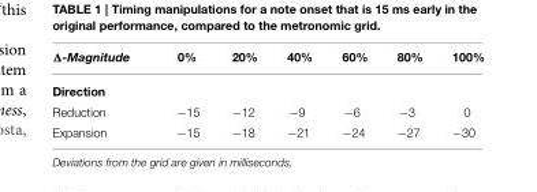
<table><thead><tr><td>Δ-Magnitude</td><td>0%</td><td>20%</td><td>40%</td><td>60%</td><td>80%</td><td>100%</td></tr></thead><tbody><tr><td colspan="7">Direction</td></tr><tr><td>Reduction</td><td>−15</td><td>−12</td><td>−9</td><td>−6</td><td>−3</td><td>0</td></tr><tr><td>Expansion</td><td>−15</td><td>−18</td><td>−21</td><td>−24</td><td>−27</td><td>−30</td></tr></tbody></table>